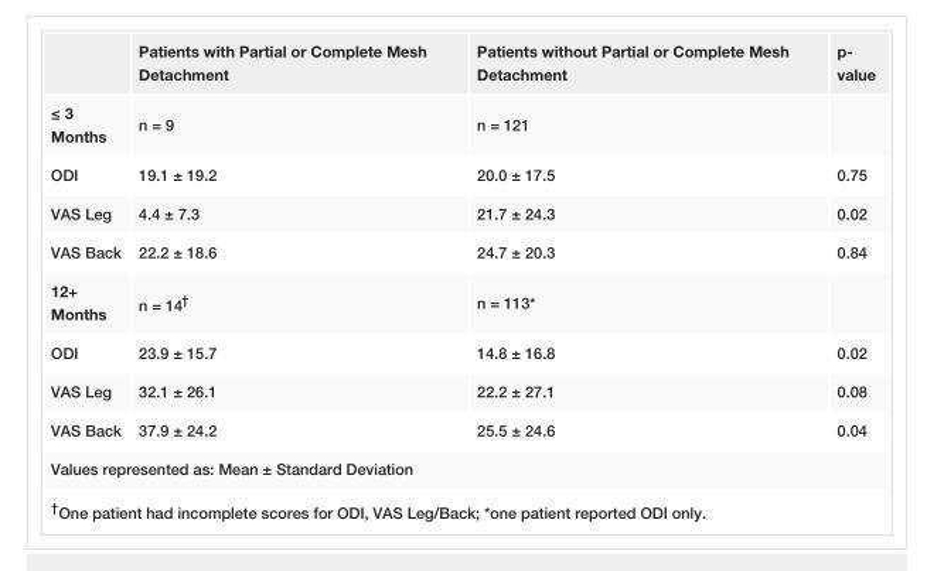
<table><thead><tr><td></td><td>Patients with Partial or Complete Mesh Detachment</td><td>Patients without Partial or Complete Mesh Detachment</td><td>p- value</td></tr></thead><tbody><tr><td>≤ 3 Months</td><td>n = 9</td><td>n = 121</td><td></td></tr><tr><td>ODI</td><td>19.1 ± 19.2</td><td>20.0 ± 17.5</td><td>0.75</td></tr><tr><td>VAS Leg</td><td>4.4 ± 7.3</td><td>21.7 ± 24.3</td><td>0.02</td></tr><tr><td>VAS Back</td><td>22.2 ± 18.6</td><td>24.7 ± 20.3</td><td>0.84</td></tr><tr><td>12+ Months</td><td>n = 14<sup>†</sup></td><td>n = 113*</td><td></td></tr><tr><td>ODI</td><td>23.9 ± 15.7</td><td>14.8 ± 16.8</td><td>0.02</td></tr><tr><td>VAS Leg</td><td>32.1 ± 26.1</td><td>22.2 ± 27.1</td><td>0.08</td></tr><tr><td>VAS Back</td><td>37.9 ± 24.2</td><td>25.5 ± 24.6</td><td>0.04</td></tr><tr><td colspan="4">Values represented as: Mean ± Standard Deviation</td></tr><tr><td colspan="4"><sup>†</sup>One patient had incomplete scores for ODI, VAS Leg/Back; *one patient reported ODI only.</td></tr></tbody></table>